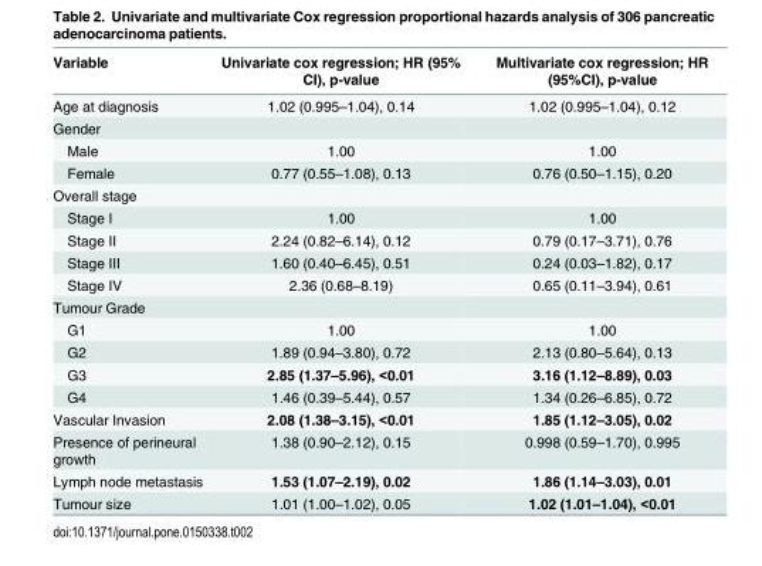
<table><thead><tr><td>Variable</td><td>Univariate cox regression; HR (95% CI), p-value</td><td>Multivariate cox regression; HR (95%CI), p-value</td></tr></thead><tbody><tr><td>Age at diagnosis</td><td>1.02 (0.995–1.04), 0.14</td><td>1.02 (0.995–1.04), 0.12</td></tr><tr><td colspan="3">Gender</td></tr><tr><td>Male</td><td>1.00</td><td>1.00</td></tr><tr><td>Female</td><td>0.77 (0.55–1.08), 0.13</td><td>0.76 (0.50–1.15), 0.20</td></tr><tr><td colspan="3">Overall stage</td></tr><tr><td>Stage I</td><td>1.00</td><td>1.00</td></tr><tr><td>Stage II</td><td>2.24 (0.82–6.14), 0.12</td><td>0.79 (0.17–3.71), 0.76</td></tr><tr><td>Stage III</td><td>1.60 (0.40–6.45), 0.51</td><td>0.24 (0.03–1.82), 0.17</td></tr><tr><td>Stage IV</td><td>2.36 (0.68–8.19)</td><td>0.65 (0.11–3.94), 0.61</td></tr><tr><td colspan="3">Tumour Grade</td></tr><tr><td>G1</td><td>1.00</td><td>1.00</td></tr><tr><td>G2</td><td>1.89 (0.94–3.80), 0.72</td><td>2.13 (0.80–5.64), 0.13</td></tr><tr><td>G3</td><td>2.85 (1.37–5.96), &lt;0.01</td><td>3.16 (1.12–8.89), 0.03</td></tr><tr><td>G4</td><td>1.46 (0.39–5.44), 0.57</td><td>1.34 (0.26–6.85), 0.72</td></tr><tr><td>Vascular Invasion</td><td>2.08 (1.38–3.15), &lt;0.01</td><td>1.85 (1.12–3.05), 0.02</td></tr><tr><td>Presence of perineural growth</td><td>1.38 (0.90–2.12), 0.15</td><td>0.998 (0.59–1.70), 0.995</td></tr><tr><td>Lymph node metastasis</td><td>1.53 (1.07–2.19), 0.02</td><td>1.86 (1.14–3.03), 0.01</td></tr><tr><td>Tumour size</td><td>1.01 (1.00–1.02), 0.05</td><td>1.02 (1.01–1.04), &lt;0.01</td></tr></tbody></table>